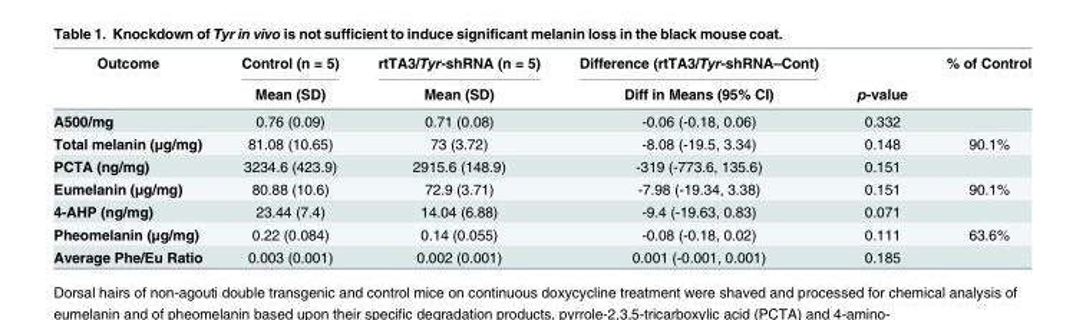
<table><thead><tr><td rowspan="2">Outcome</td><td rowspan="2">Control (n = 5) Mean (SD)</td><td rowspan="2">rtTA3/Tyr-shRNA (n = 5) Mean (SD)</td><td rowspan="2">Difference (rtTA3/Tyr-shRNA–Cont) Diff in Means (95% CI)</td><td rowspan="2">p-value</td><td rowspan="2">% of Control</td></tr><tr></tr></thead><tbody><tr><td>A500/mg</td><td>0.76 (0.09)</td><td>0.71 (0.08)</td><td>-0.06 (-0.18, 0.06)</td><td>0.332</td><td></td></tr><tr><td>Total melanin (μg/mg)</td><td>81.08 (10.65)</td><td>73 (3.72)</td><td>-8.08 (-19.5, 3.34)</td><td>0.148</td><td>90.1%</td></tr><tr><td>PCTA (ng/mg)</td><td>3234.6 (423.9)</td><td>2915.6 (148.9)</td><td>-319 (-773.6, 135.6)</td><td>0.151</td><td></td></tr><tr><td>Eumelanin (μg/mg)</td><td>80.88 (10.6)</td><td>72.9 (3.71)</td><td>-7.98 (-19.34, 3.38)</td><td>0.151</td><td>90.1%</td></tr><tr><td>4-AHP (ng/mg)</td><td>23.44 (7.4)</td><td>14.04 (6.88)</td><td>-9.4 (-19.63, 0.83)</td><td>0.071</td><td></td></tr><tr><td>Pheomelanin (μg/mg)</td><td>0.22 (0.084)</td><td>0.14 (0.055)</td><td>-0.08 (-0.18, 0.02)</td><td>0.111</td><td>63.6%</td></tr><tr><td>Average Phe/Eu Ratio</td><td>0.003 (0.001)</td><td>0.002 (0.001)</td><td>0.001 (-0.001, 0.001)</td><td>0.185</td><td></td></tr></tbody></table>